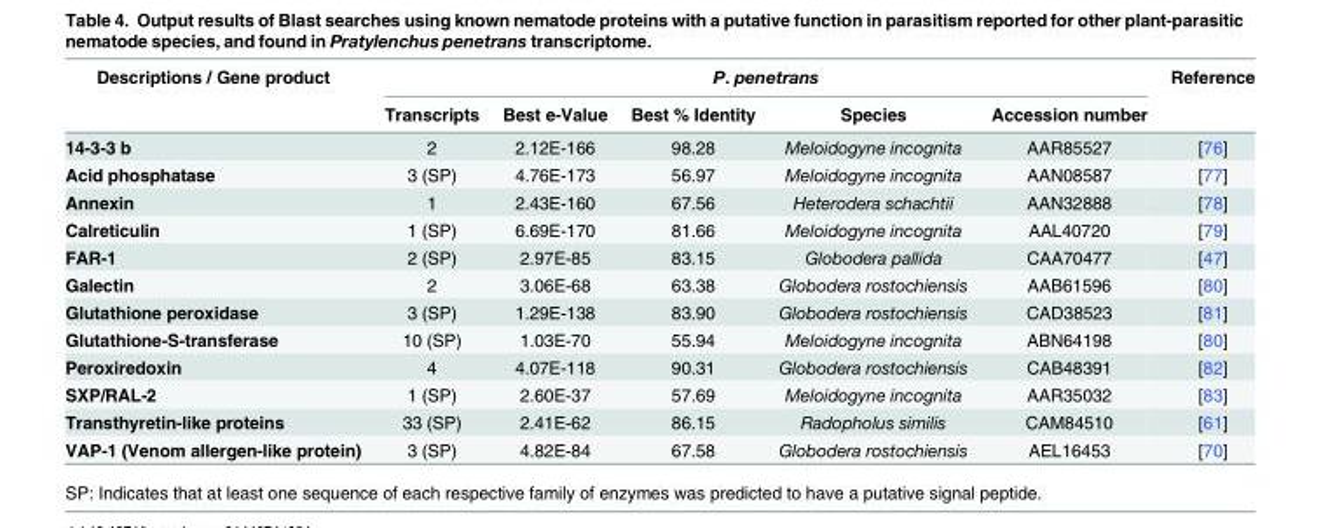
<table><thead><tr><td rowspan="2">Descriptions / Gene product</td><td colspan="5">P. penetrans</td><td rowspan="2">Reference</td></tr><tr><td>Transcripts</td><td>Best e-Value</td><td>Best % Identity</td><td>Species</td><td>Accession number</td></tr></thead><tbody><tr><td>14-3-3 b</td><td>2</td><td>2.12E-166</td><td>98.28</td><td>Meloidogyne incognita</td><td>AAR85527</td><td>[76]</td></tr><tr><td>Acid phosphatase</td><td>3 (SP)</td><td>4.76E-173</td><td>56.97</td><td>Meloidogyne incognita</td><td>AAN08587</td><td>[77]</td></tr><tr><td>Annexin</td><td>1</td><td>2.43E-160</td><td>67.56</td><td>Heterodera schachtii</td><td>AAN32888</td><td>[78]</td></tr><tr><td>Calreticulin</td><td>1 (SP)</td><td>6.69E-170</td><td>81.66</td><td>Meloidogyne incognita</td><td>AAL40720</td><td>[79]</td></tr><tr><td>FAR-1</td><td>2 (SP)</td><td>2.97E-85</td><td>83.15</td><td>Globodera pallida</td><td>CAA70477</td><td>[47]</td></tr><tr><td>Galectin</td><td>2</td><td>3.06E-68</td><td>63.38</td><td>Globodera rostochiensis</td><td>AAB61596</td><td>[80]</td></tr><tr><td>Glutathione peroxidase</td><td>3 (SP)</td><td>1.29E-138</td><td>83.90</td><td>Globodera rostochiensis</td><td>CAD38523</td><td>[81]</td></tr><tr><td>Glutathione-S-transferase</td><td>10 (SP)</td><td>1.03E-70</td><td>55.94</td><td>Meloidogyne incognita</td><td>ABN64198</td><td>[80]</td></tr><tr><td>Peroxiredoxin</td><td>4</td><td>4.07E-118</td><td>90.31</td><td>Globodera rostochiensis</td><td>CAB48391</td><td>[82]</td></tr><tr><td>SXP/RAL-2</td><td>1 (SP)</td><td>2.60E-37</td><td>57.69</td><td>Meloidogyne incognita</td><td>AAR35032</td><td>[83]</td></tr><tr><td>Transthyretin-like proteins</td><td>33 (SP)</td><td>2.41E-62</td><td>86.15</td><td>Radopholus similis</td><td>CAM84510</td><td>[61]</td></tr><tr><td>VAP-1 (Venom allergen-like protein)</td><td>3 (SP)</td><td>4.82E-84</td><td>67.58</td><td>Globodera rostochiensis</td><td>AEL16453</td><td>[70]</td></tr></tbody></table>